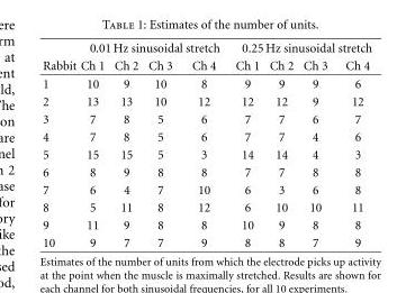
<table><thead><tr><td rowspan="2">Rabbit</td><td colspan="4">0.01 Hz sinusoidal stretch</td><td colspan="4">0.25 Hz sinusoidal stretch</td></tr><tr><td>Ch 1</td><td>Ch 2</td><td>Ch 3</td><td>Ch 4</td><td>Ch 1</td><td>Ch 2</td><td>Ch 3</td><td>Ch 4</td></tr></thead><tbody><tr><td>1</td><td>10</td><td>9</td><td>10</td><td>8</td><td>9</td><td>9</td><td>9</td><td>6</td></tr><tr><td>2</td><td>13</td><td>13</td><td>10</td><td>12</td><td>12</td><td>12</td><td>9</td><td>12</td></tr><tr><td>3</td><td>7</td><td>8</td><td>5</td><td>6</td><td>7</td><td>7</td><td>6</td><td>7</td></tr><tr><td>4</td><td>7</td><td>8</td><td>5</td><td>6</td><td>7</td><td>7</td><td>4</td><td>6</td></tr><tr><td>5</td><td>15</td><td>15</td><td>5</td><td>3</td><td>14</td><td>14</td><td>4</td><td>3</td></tr><tr><td>6</td><td>8</td><td>9</td><td>8</td><td>8</td><td>7</td><td>7</td><td>8</td><td>8</td></tr><tr><td>7</td><td>6</td><td>4</td><td>7</td><td>10</td><td>6</td><td>3</td><td>6</td><td>8</td></tr><tr><td>8</td><td>5</td><td>11</td><td>8</td><td>12</td><td>6</td><td>10</td><td>10</td><td>11</td></tr><tr><td>9</td><td>11</td><td>9</td><td>8</td><td>8</td><td>10</td><td>9</td><td>8</td><td>8</td></tr><tr><td>10</td><td>9</td><td>7</td><td>7</td><td>9</td><td>8</td><td>8</td><td>7</td><td>9</td></tr></tbody></table>